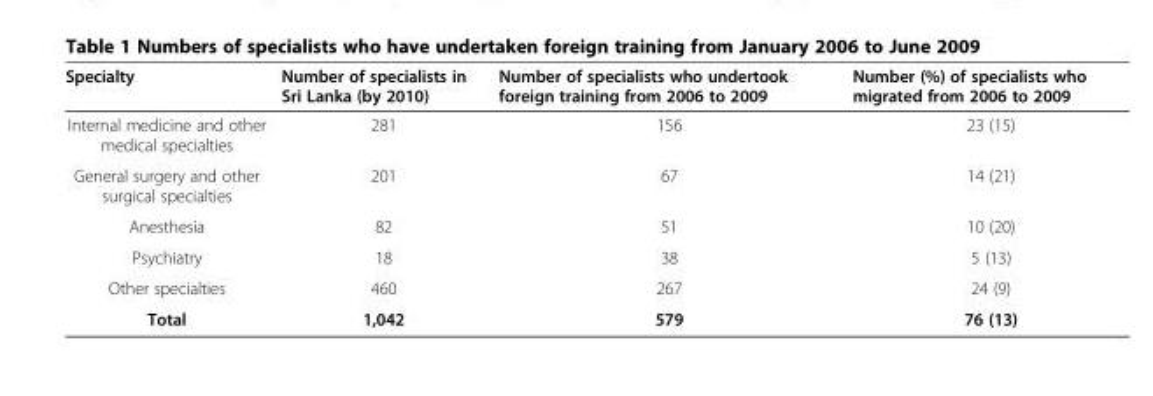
<table><thead><tr><td>Specialty</td><td>Number of specialists in Sri Lanka (by 2010)</td><td>Number of specialists who undertook foreign training from 2006 to 2009</td><td>Number (%) of specialists who migrated from 2006 to 2009</td></tr></thead><tbody><tr><td>Internal medicine and other medical specialties</td><td>281</td><td>156</td><td>23 (15)</td></tr><tr><td>General surgery and other surgical specialties</td><td>201</td><td>67</td><td>14 (21)</td></tr><tr><td>Anesthesia</td><td>82</td><td>51</td><td>10 (20)</td></tr><tr><td>Psychiatry</td><td>18</td><td>38</td><td>5 (13)</td></tr><tr><td>Other specialties</td><td>460</td><td>267</td><td>24 (9)</td></tr><tr><td>Total</td><td>1,042</td><td>579</td><td>76 (13)</td></tr></tbody></table>